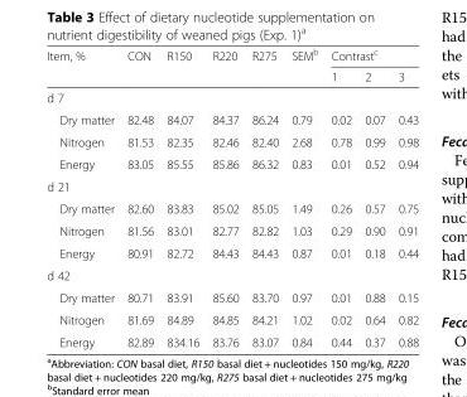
<table><thead><tr><td rowspan="2">Item, %</td><td rowspan="2">CON</td><td rowspan="2">R150</td><td rowspan="2">R220</td><td rowspan="2">R275</td><td rowspan="2">SEM<sup>b</sup></td><td colspan="3">Contrast<sup>c</sup></td></tr><tr><td>1</td><td>2</td><td>3</td></tr></thead><tbody><tr><td colspan="9">d 7</td></tr><tr><td>Dry matter</td><td>82.48</td><td>84.07</td><td>84.37</td><td>86.24</td><td>0.79</td><td>0.02</td><td>0.07</td><td>0.43</td></tr><tr><td>Nitrogen</td><td>81.53</td><td>82.35</td><td>82.46</td><td>82.40</td><td>2.68</td><td>0.78</td><td>0.99</td><td>0.98</td></tr><tr><td>Energy</td><td>83.05</td><td>85.55</td><td>85.86</td><td>86.32</td><td>0.83</td><td>0.01</td><td>0.52</td><td>0.94</td></tr><tr><td colspan="9">d 21</td></tr><tr><td>Dry matter</td><td>82.60</td><td>83.83</td><td>85.02</td><td>85.05</td><td>1.49</td><td>0.26</td><td>0.57</td><td>0.75</td></tr><tr><td>Nitrogen</td><td>81.56</td><td>83.01</td><td>82.77</td><td>82.82</td><td>1.03</td><td>0.29</td><td>0.90</td><td>0.91</td></tr><tr><td>Energy</td><td>80.91</td><td>82.72</td><td>84.43</td><td>84.43</td><td>0.87</td><td>0.01</td><td>0.18</td><td>0.44</td></tr><tr><td colspan="9">d 42</td></tr><tr><td>Dry matter</td><td>80.71</td><td>83.91</td><td>85.60</td><td>83.70</td><td>0.97</td><td>0.01</td><td>0.88</td><td>0.15</td></tr><tr><td>Nitrogen</td><td>81.69</td><td>84.89</td><td>84.85</td><td>84.21</td><td>1.02</td><td>0.02</td><td>0.64</td><td>0.82</td></tr><tr><td>Energy</td><td>82.89</td><td>834.16</td><td>83.76</td><td>83.07</td><td>0.84</td><td>0.44</td><td>0.37</td><td>0.88</td></tr></tbody></table>